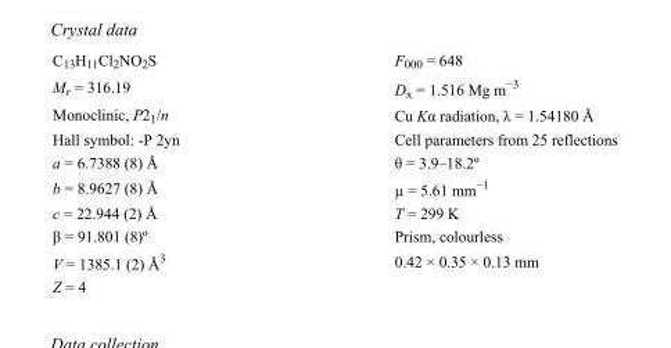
<table><tbody><tr><td>C<sub>13</sub>H<sub>11</sub>Cl<sub>2</sub>NO<sub>2</sub>S</td><td>F000 = 648</td></tr><tr><td>M<sub>r</sub> = 316.19</td><td>D<sub>x</sub> = 1.516 Mg m<sup>−3</sup></td></tr><tr><td>Monoclinic, P2<sub>1</sub>/n</td><td>Cu Kα radiation, λ = 1.54180 Å</td></tr><tr><td>Hall symbol: -P 2yn</td><td>Cell parameters from 25 reflections</td></tr><tr><td>a = 6.7388 (8) Å</td><td>θ = 3.9–18.2º</td></tr><tr><td>b = 8.9627 (8) Å</td><td>µ = 5.61 mm<sup>−1</sup></td></tr><tr><td>c = 22.944 (2) Å</td><td>T = 299 K</td></tr><tr><td>β = 91.801 (8)º</td><td>Prism, colourless</td></tr><tr><td>V = 1385.1 (2) Å<sup>3</sup></td><td>0.42 × 0.35 × 0.13 mm</td></tr><tr><td>Z = 4</td><td></td></tr></tbody></table>